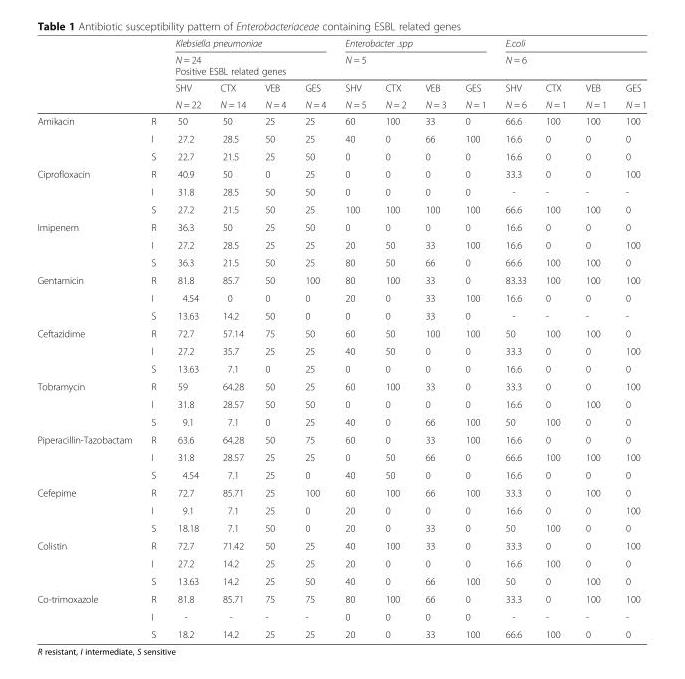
<table><thead><tr><td rowspan="5"></td><td rowspan="5"></td><td rowspan="2" colspan="4">Klebsiella pneumoniae N = 24</td><td rowspan="2" colspan="4">Enterobacter .spp N = 5</td><td rowspan="2" colspan="4">E.coli N = 6</td></tr><tr></tr><tr><td colspan="12">Positive ESBL related genes</td></tr><tr><td rowspan="2">SHV N = 22</td><td rowspan="2">CTX N = 14</td><td rowspan="2">VEB N = 4</td><td rowspan="2">GES N = 4</td><td rowspan="2">SHV N = 5</td><td rowspan="2">CTX N = 2</td><td rowspan="2">VEB N = 3</td><td rowspan="2">GES N = 1</td><td rowspan="2">SHV N = 6</td><td rowspan="2">CTX N = 1</td><td rowspan="2">VEB N = 1</td><td rowspan="2">GES N = 1</td></tr><tr></tr></thead><tbody><tr><td rowspan="3">Amikacin</td><td>R</td><td>50</td><td>50</td><td>25</td><td>25</td><td>60</td><td>100</td><td>33</td><td>0</td><td>66.6</td><td>100</td><td>100</td><td>100</td></tr><tr><td>I</td><td>27.2</td><td>28.5</td><td>50</td><td>25</td><td>40</td><td>0</td><td>66</td><td>100</td><td>16.6</td><td>0</td><td>0</td><td>0</td></tr><tr><td>S</td><td>22.7</td><td>21.5</td><td>25</td><td>50</td><td>0</td><td>0</td><td>0</td><td>0</td><td>16.6</td><td>0</td><td>0</td><td>0</td></tr><tr><td rowspan="3">Ciprofloxacin</td><td>R</td><td>40.9</td><td>50</td><td>0</td><td>25</td><td>0</td><td>0</td><td>0</td><td>0</td><td>33.3</td><td>0</td><td>0</td><td>100</td></tr><tr><td>I</td><td>31.8</td><td>28.5</td><td>50</td><td>50</td><td>0</td><td>0</td><td>0</td><td>0</td><td>-</td><td>-</td><td>-</td><td>-</td></tr><tr><td>S</td><td>27.2</td><td>21.5</td><td>50</td><td>25</td><td>100</td><td>100</td><td>100</td><td>100</td><td>66.6</td><td>100</td><td>100</td><td>0</td></tr><tr><td rowspan="3">Imipenem</td><td>R</td><td>36.3</td><td>50</td><td>25</td><td>50</td><td>0</td><td>0</td><td>0</td><td>0</td><td>16.6</td><td>0</td><td>0</td><td>0</td></tr><tr><td>I</td><td>27.2</td><td>28.5</td><td>25</td><td>25</td><td>20</td><td>50</td><td>33</td><td>100</td><td>16.6</td><td>0</td><td>0</td><td>100</td></tr><tr><td>S</td><td>36.3</td><td>21.5</td><td>50</td><td>25</td><td>80</td><td>50</td><td>66</td><td>0</td><td>66.6</td><td>100</td><td>100</td><td>0</td></tr><tr><td rowspan="3">Gentamicin</td><td>R</td><td>81.8</td><td>85.7</td><td>50</td><td>100</td><td>80</td><td>100</td><td>33</td><td>0</td><td>83.33</td><td>100</td><td>100</td><td>100</td></tr><tr><td>I</td><td>4.54</td><td>0</td><td>0</td><td>0</td><td>20</td><td>0</td><td>33</td><td>100</td><td>16.6</td><td>0</td><td>0</td><td>0</td></tr><tr><td>S</td><td>13.63</td><td>14.2</td><td>50</td><td>0</td><td>0</td><td>0</td><td>33</td><td>0</td><td>-</td><td>-</td><td>-</td><td>-</td></tr><tr><td rowspan="3">Ceftazidime</td><td>R</td><td>72.7</td><td>57.14</td><td>75</td><td>50</td><td>60</td><td>50</td><td>100</td><td>100</td><td>50</td><td>100</td><td>100</td><td>0</td></tr><tr><td>I</td><td>27.2</td><td>35.7</td><td>25</td><td>25</td><td>40</td><td>50</td><td>0</td><td>0</td><td>33.3</td><td>0</td><td>0</td><td>100</td></tr><tr><td>S</td><td>13.63</td><td>7.1</td><td>0</td><td>25</td><td>0</td><td>0</td><td>0</td><td>0</td><td>16.6</td><td>0</td><td>0</td><td>0</td></tr><tr><td rowspan="3">Tobramycin</td><td>R</td><td>59</td><td>64.28</td><td>50</td><td>25</td><td>60</td><td>100</td><td>33</td><td>0</td><td>33.3</td><td>0</td><td>0</td><td>100</td></tr><tr><td>I</td><td>31.8</td><td>28.57</td><td>50</td><td>50</td><td>0</td><td>0</td><td>0</td><td>0</td><td>16.6</td><td>0</td><td>100</td><td>0</td></tr><tr><td>S</td><td>9.1</td><td>7.1</td><td>0</td><td>25</td><td>40</td><td>0</td><td>66</td><td>100</td><td>50</td><td>100</td><td>0</td><td>0</td></tr><tr><td rowspan="3">Piperacillin-Tazobactam</td><td>R</td><td>63.6</td><td>64.28</td><td>50</td><td>75</td><td>60</td><td>0</td><td>33</td><td>100</td><td>16.6</td><td>0</td><td>0</td><td>0</td></tr><tr><td>I</td><td>31.8</td><td>28.57</td><td>25</td><td>25</td><td>0</td><td>50</td><td>66</td><td>0</td><td>66.6</td><td>100</td><td>100</td><td>100</td></tr><tr><td>S</td><td>4.54</td><td>7.1</td><td>25</td><td>0</td><td>40</td><td>50</td><td>0</td><td>0</td><td>16.6</td><td>0</td><td>0</td><td>0</td></tr><tr><td rowspan="3">Cefepime</td><td>R</td><td>72.7</td><td>85.71</td><td>25</td><td>100</td><td>60</td><td>100</td><td>66</td><td>100</td><td>33.3</td><td>0</td><td>100</td><td>0</td></tr><tr><td>I</td><td>9.1</td><td>7.1</td><td>25</td><td>0</td><td>20</td><td>0</td><td>0</td><td>0</td><td>16.6</td><td>0</td><td>0</td><td>100</td></tr><tr><td>S</td><td>18.18</td><td>7.1</td><td>50</td><td>0</td><td>20</td><td>0</td><td>33</td><td>0</td><td>50</td><td>100</td><td>0</td><td>0</td></tr><tr><td rowspan="3">Colistin</td><td>R</td><td>72.7</td><td>71.42</td><td>50</td><td>25</td><td>40</td><td>100</td><td>33</td><td>0</td><td>33.3</td><td>0</td><td>0</td><td>100</td></tr><tr><td>I</td><td>27.2</td><td>14.2</td><td>25</td><td>25</td><td>20</td><td>0</td><td>0</td><td>0</td><td>16.6</td><td>100</td><td>0</td><td>0</td></tr><tr><td>S</td><td>13.63</td><td>14.2</td><td>25</td><td>50</td><td>40</td><td>0</td><td>66</td><td>100</td><td>50</td><td>0</td><td>100</td><td>0</td></tr><tr><td rowspan="3">Co-trimoxazole</td><td>R</td><td>81.8</td><td>85.71</td><td>75</td><td>75</td><td>80</td><td>100</td><td>66</td><td>0</td><td>33.3</td><td>0</td><td>100</td><td>100</td></tr><tr><td>I</td><td>-</td><td>-</td><td>-</td><td>-</td><td>0</td><td>0</td><td>0</td><td>0</td><td>-</td><td>-</td><td>-</td><td>-</td></tr><tr><td>S</td><td>18.2</td><td>14.2</td><td>25</td><td>25</td><td>20</td><td>0</td><td>33</td><td>100</td><td>66.6</td><td>100</td><td>0</td><td>0</td></tr></tbody></table>